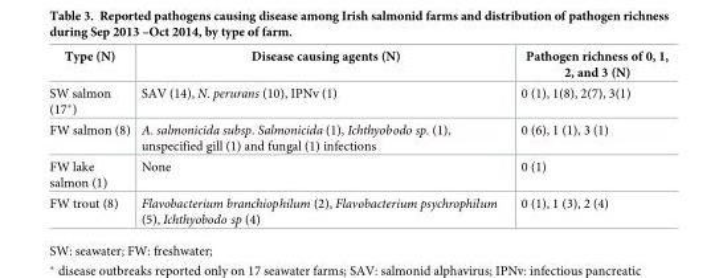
<table><thead><tr><td>Type (N)</td><td>Disease causing agents (N)</td><td>Pathogen richness of 0, 1, 2, and 3 (N)</td></tr></thead><tbody><tr><td>SW salmon (17*)</td><td>SAV (14), N. perurans (10), IPNv (1)</td><td>0 (1), 1(8), 2(7), 3(1)</td></tr><tr><td>FW salmon (8)</td><td>A. salmonicida subsp. Salmonicida (1), Ichthyobodo sp. (1), unspecified gill (1) and fungal (1) infections</td><td>0 (6), 1 (1), 3 (1)</td></tr><tr><td>FW lake salmon (1)</td><td>None</td><td>0 (1)</td></tr><tr><td>FW trout (8)</td><td>Flavobacterium branchiophilum (2), Flavobacterium psychrophilum (5), Ichthyobodo sp (4)</td><td>0 (1), 1 (3), 2 (4)</td></tr></tbody></table>